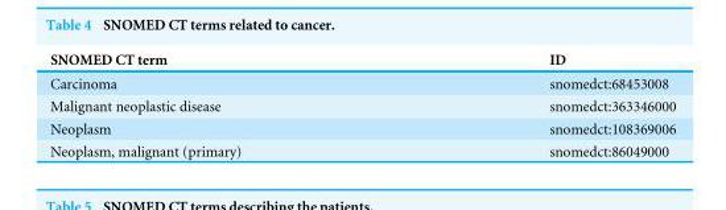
<table><thead><tr><td>SNOMED CT term</td><td>ID</td></tr></thead><tbody><tr><td>Carcinoma</td><td>snomedct:68453008</td></tr><tr><td>Malignant neoplastic disease</td><td>snomedct:363346000</td></tr><tr><td>Neoplasm</td><td>snomedct:108369006</td></tr><tr><td>Neoplasm, malignant (primary)</td><td>snomedct:86049000</td></tr></tbody></table>